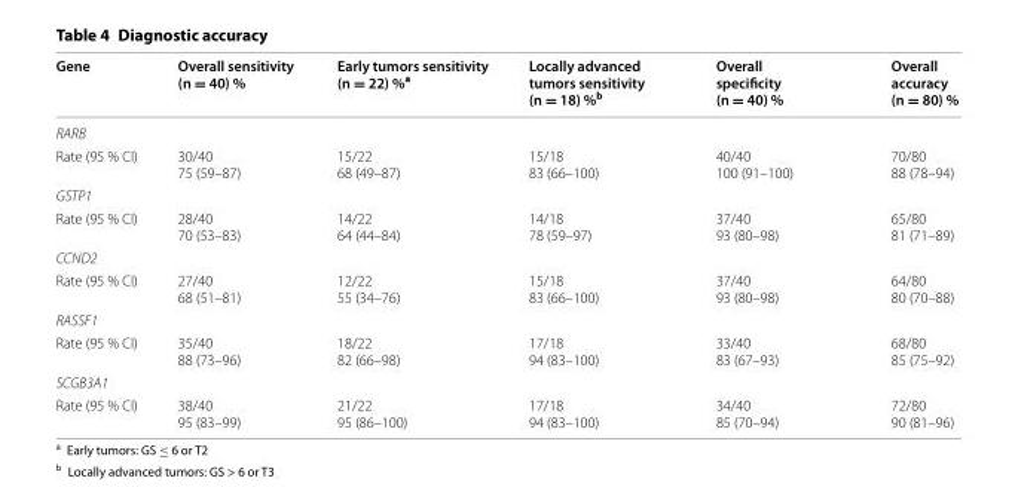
<table><thead><tr><td>Gene</td><td>Overall sensitivity (n = 40) %</td><td>Early tumors sensitivity (n = 22) %<sup>a</sup></td><td>Locally advanced tumors sensitivity (n = 18) %<sup>b</sup></td><td>Overall specificity (n = 40) %</td><td>Overall accuracy (n = 80) %</td></tr></thead><tbody><tr><td colspan="6">RARB</td></tr><tr><td>Rate (95 % CI)</td><td>30/40 75 (59–87)</td><td>15/22 68 (49–87)</td><td>15/18 83 (66–100)</td><td>40/40 100 (91–100)</td><td>70/80 88 (78–94)</td></tr><tr><td colspan="6">GSTP1</td></tr><tr><td>Rate (95 % CI)</td><td>28/40 70 (53–83)</td><td>14/22 64 (44–84)</td><td>14/18 78 (59–97)</td><td>37/40 93 (80–98)</td><td>65/80 81 (71–89)</td></tr><tr><td colspan="6">CCND2</td></tr><tr><td>Rate (95 % CI)</td><td>27/40 68 (51–81)</td><td>12/22 55 (34–76)</td><td>15/18 83 (66–100)</td><td>37/40 93 (80–98)</td><td>64/80 80 (70–88)</td></tr><tr><td colspan="6">RASSF1</td></tr><tr><td>Rate (95 % CI)</td><td>35/40 88 (73–96)</td><td>18/22 82 (66–98)</td><td>17/18 94 (83–100)</td><td>33/40 83 (67–93)</td><td>68/80 85 (75–92)</td></tr><tr><td colspan="6">SCGB3A1</td></tr><tr><td>Rate (95 % CI)</td><td>38/40 95 (83–99)</td><td>21/22 95 (86–100)</td><td>17/18 94 (83–100)</td><td>34/40 85 (70–94)</td><td>72/80 90 (81–96)</td></tr></tbody></table>